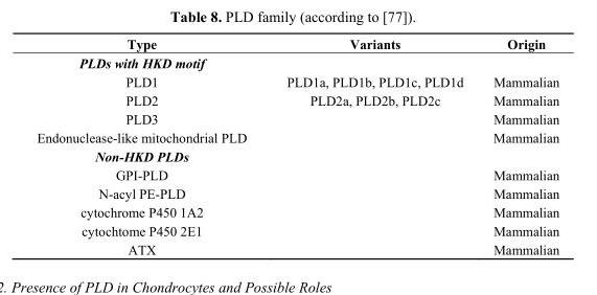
<table><thead><tr><td>Type</td><td>Variants</td><td>Origin</td></tr></thead><tbody><tr><td colspan="3">PLDs with HKD motif</td></tr><tr><td>PLD1</td><td>PLD1a, PLD1b, PLD1c, PLD1d</td><td>Mammalian</td></tr><tr><td>PLD2</td><td>PLD2a, PLD2b, PLD2c</td><td>Mammalian</td></tr><tr><td>PLD3</td><td></td><td>Mammalian</td></tr><tr><td>Endonuclease-like mitochondrial PLD</td><td></td><td>Mammalian</td></tr><tr><td colspan="3">Non-HKD PLDs</td></tr><tr><td>GPI-PLD</td><td></td><td>Mammalian</td></tr><tr><td>N-acyl PE-PLD</td><td></td><td>Mammalian</td></tr><tr><td>cytochrome P450 1A2</td><td></td><td>Mammalian</td></tr><tr><td>cytochtome P450 2E1</td><td></td><td>Mammalian</td></tr><tr><td>ATX</td><td></td><td>Mammalian</td></tr></tbody></table>